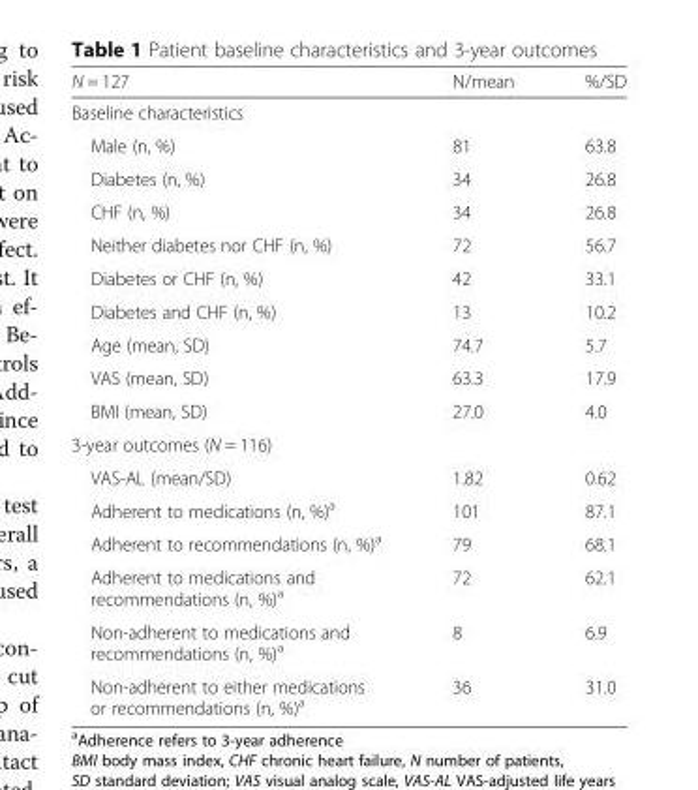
<table><thead><tr><td>N = 127</td><td>N/mean</td><td>%/SD</td></tr></thead><tbody><tr><td colspan="3">Baseline characteristics</td></tr><tr><td>Male (n, %)</td><td>81</td><td>63.8</td></tr><tr><td>Diabetes (n, %)</td><td>34</td><td>26.8</td></tr><tr><td>CHF (n, %)</td><td>34</td><td>26.8</td></tr><tr><td>Neither diabetes nor CHF (n, %)</td><td>72</td><td>56.7</td></tr><tr><td>Diabetes or CHF (n, %)</td><td>42</td><td>33.1</td></tr><tr><td>Diabetes and CHF (n, %)</td><td>13</td><td>10.2</td></tr><tr><td>Age (mean, SD)</td><td>74.7</td><td>5.7</td></tr><tr><td>VAS (mean, SD)</td><td>63.3</td><td>17.9</td></tr><tr><td>BMI (mean, SD)</td><td>27.0</td><td>4.0</td></tr><tr><td colspan="3">3-year outcomes (N = 116)</td></tr><tr><td>VAS-AL (mean/SD)</td><td>1.82</td><td>0.62</td></tr><tr><td>Adherent to medications (n, %)<sup>a</sup></td><td>101</td><td>87.1</td></tr><tr><td>Adherent to recommendations (n, %)<sup>a</sup></td><td>79</td><td>68.1</td></tr><tr><td>Adherent to medications and recommendations (n, %)<sup>a</sup></td><td>72</td><td>62.1</td></tr><tr><td>Non-adherent to medications and recommendations (n, %)<sup>a</sup></td><td>8</td><td>6.9</td></tr><tr><td>Non-adherent to either medications or recommendations (n, %)<sup>a</sup></td><td>36</td><td>31.0</td></tr></tbody></table>